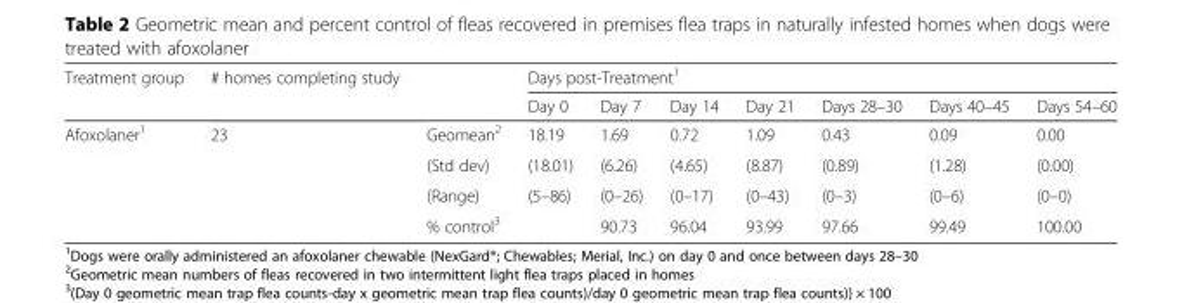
<table><thead><tr><td rowspan="2">Treatment group</td><td rowspan="2"># homes completing study</td><td rowspan="2"></td><td colspan="7">Days post-Treatment<sup>1</sup></td></tr><tr><td>Day 0</td><td>Day 7</td><td>Day 14</td><td>Day 21</td><td>Days 28–30</td><td>Days 40–45</td><td>Days 54–60</td></tr></thead><tbody><tr><td rowspan="3">Afoxolaner<sup>1</sup></td><td rowspan="3">23</td><td>Geomean<sup>2</sup></td><td>18.19</td><td>1.69</td><td>0.72</td><td>1.09</td><td>0.43</td><td>0.09</td><td>0.00</td></tr><tr><td>(Std dev)</td><td>(18.01)</td><td>(6.26)</td><td>(4.65)</td><td>(8.87)</td><td>(0.89)</td><td>(1.28)</td><td>(0.00)</td></tr><tr><td>(Range)</td><td>(5–86)</td><td>(0–26)</td><td>(0–17)</td><td>(0–43)</td><td>(0–3)</td><td>(0–6)</td><td>(0–0)</td></tr><tr><td colspan="2"></td><td>% control<sup>3</sup></td><td></td><td>90.73</td><td>96.04</td><td>93.99</td><td>97.66</td><td>99.49</td><td>100.00</td></tr></tbody></table>